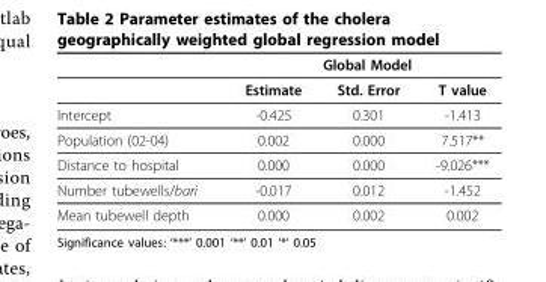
<table><thead><tr><td rowspan="2"></td><td colspan="3">Global Model</td></tr><tr><td>Estimate</td><td>Std. Error</td><td>T value</td></tr></thead><tbody><tr><td>Intercept</td><td>-0.425</td><td>0.301</td><td>-1.413</td></tr><tr><td>Population (02-04)</td><td>0.002</td><td>0.000</td><td>7.517**</td></tr><tr><td>Distance to hospital</td><td>0.000</td><td>0.000</td><td>-9.026***</td></tr><tr><td>Number tubewells/bari</td><td>-0.017</td><td>0.012</td><td>-1.452</td></tr><tr><td>Mean tubewell depth</td><td>0.000</td><td>0.002</td><td>0.002</td></tr></tbody></table>